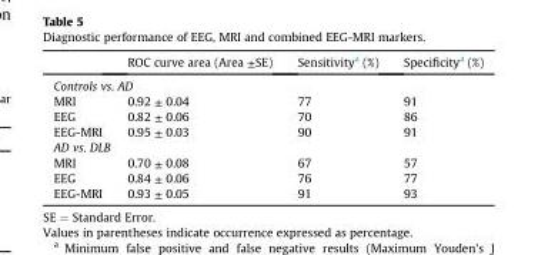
<table><thead><tr><td></td><td>ROC curve area (Area ±SE)</td><td>Sensitivity<sup>a</sup> (%)</td><td>Specificity<sup>a</sup> (%)</td></tr></thead><tbody><tr><td colspan="4">Controls vs. AD</td></tr><tr><td>MRI</td><td>0.92 ± 0.04</td><td>77</td><td>91</td></tr><tr><td>EEG</td><td>0.82 ± 0.06</td><td>70</td><td>86</td></tr><tr><td>EEG-MRI</td><td>0.95 ± 0.03</td><td>90</td><td>91</td></tr><tr><td colspan="4">AD vs. DLB</td></tr><tr><td>MRI</td><td>0.70 ± 0.08</td><td>67</td><td>57</td></tr><tr><td>EEG</td><td>0.84 ± 0.06</td><td>76</td><td>77</td></tr><tr><td>EEG-MRI</td><td>0.93 ± 0.05</td><td>91</td><td>93</td></tr></tbody></table>